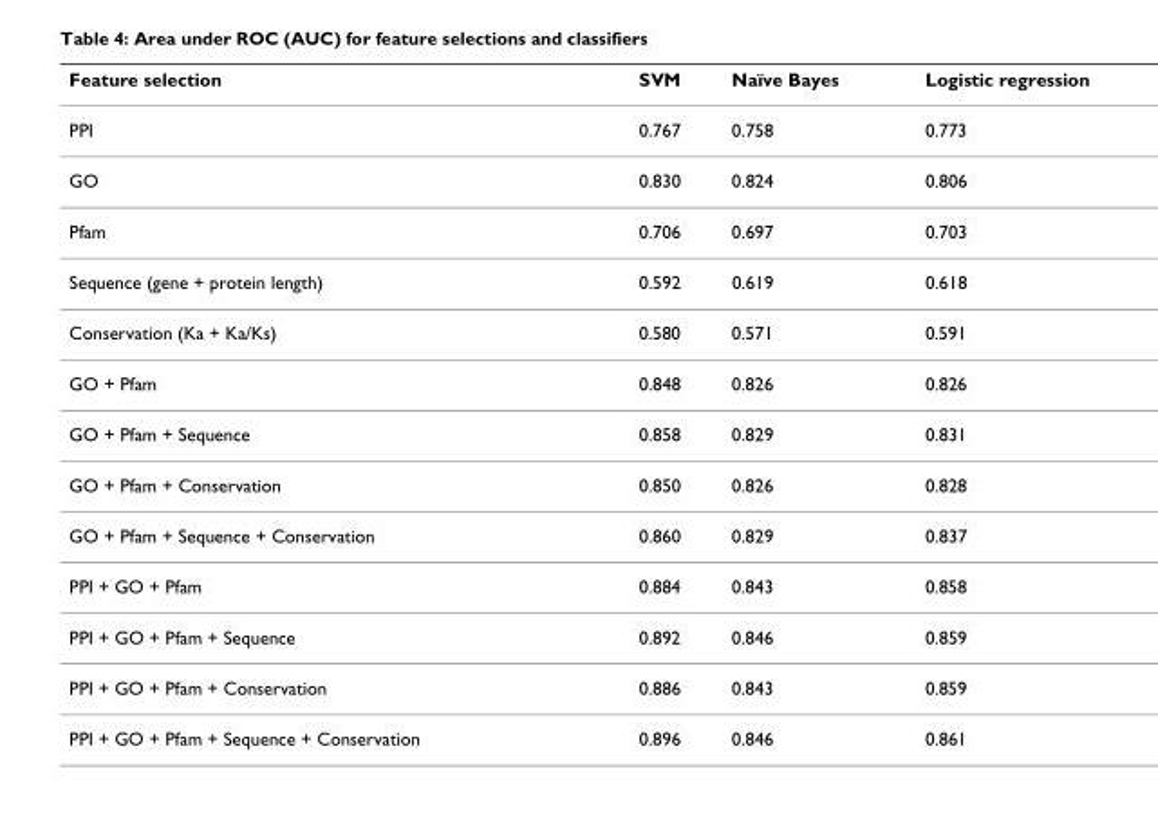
<table><thead><tr><td>Feature selection</td><td>SVM</td><td>Naïve Bayes</td><td>Logistic regression</td></tr></thead><tbody><tr><td>PPI</td><td>0.767</td><td>0.758</td><td>0.773</td></tr><tr><td>GO</td><td>0.830</td><td>0.824</td><td>0.806</td></tr><tr><td>Pfam</td><td>0.706</td><td>0.697</td><td>0.703</td></tr><tr><td>Sequence (gene + protein length)</td><td>0.592</td><td>0.619</td><td>0.618</td></tr><tr><td>Conservation (Ka + Ka/Ks)</td><td>0.580</td><td>0.571</td><td>0.591</td></tr><tr><td>GO + Pfam</td><td>0.848</td><td>0.826</td><td>0.826</td></tr><tr><td>GO + Pfam + Sequence</td><td>0.858</td><td>0.829</td><td>0.831</td></tr><tr><td>GO + Pfam + Conservation</td><td>0.850</td><td>0.826</td><td>0.828</td></tr><tr><td>GO + Pfam + Sequence + Conservation</td><td>0.860</td><td>0.829</td><td>0.837</td></tr><tr><td>PPI + GO + Pfam</td><td>0.884</td><td>0.843</td><td>0.858</td></tr><tr><td>PPI + GO + Pfam + Sequence</td><td>0.892</td><td>0.846</td><td>0.859</td></tr><tr><td>PPI + GO + Pfam + Conservation</td><td>0.886</td><td>0.843</td><td>0.859</td></tr><tr><td>PPI + GO + Pfam + Sequence + Conservation</td><td>0.896</td><td>0.846</td><td>0.861</td></tr></tbody></table>